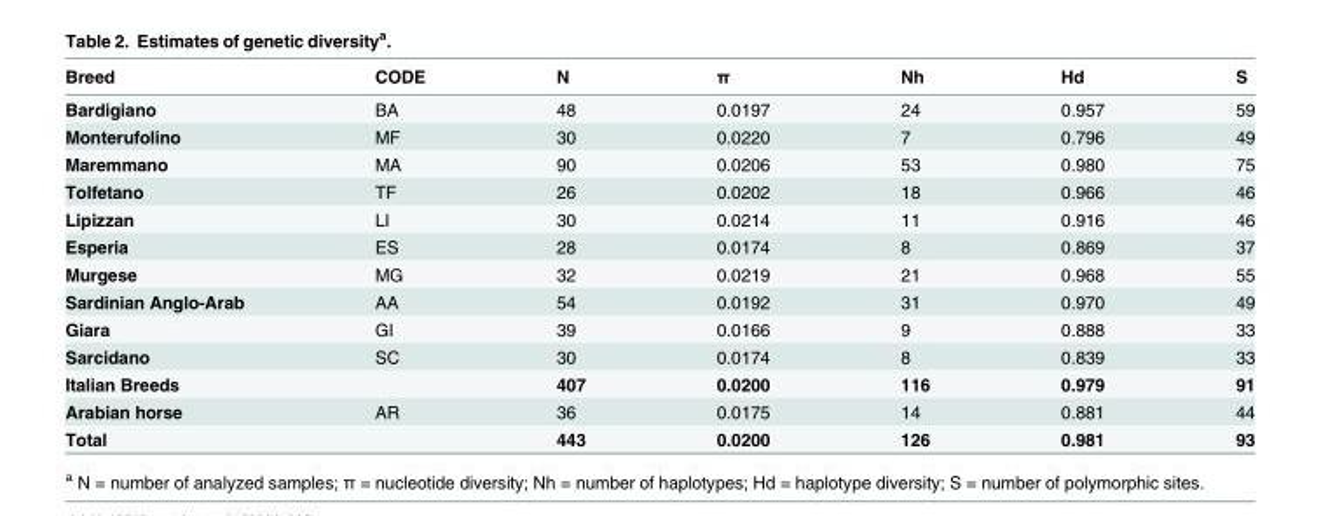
<table><thead><tr><td>Breed</td><td>CODE</td><td>N</td><td>π</td><td>Nh</td><td>Hd</td><td>S</td></tr></thead><tbody><tr><td>Bardigiano</td><td>BA</td><td>48</td><td>0.0197</td><td>24</td><td>0.957</td><td>59</td></tr><tr><td>Monterufolino</td><td>MF</td><td>30</td><td>0.0220</td><td>7</td><td>0.796</td><td>49</td></tr><tr><td>Maremmano</td><td>MA</td><td>90</td><td>0.0206</td><td>53</td><td>0.980</td><td>75</td></tr><tr><td>Tolfetano</td><td>TF</td><td>26</td><td>0.0202</td><td>18</td><td>0.966</td><td>46</td></tr><tr><td>Lipizzan</td><td>LI</td><td>30</td><td>0.0214</td><td>11</td><td>0.916</td><td>46</td></tr><tr><td>Esperia</td><td>ES</td><td>28</td><td>0.0174</td><td>8</td><td>0.869</td><td>37</td></tr><tr><td>Murgese</td><td>MG</td><td>32</td><td>0.0219</td><td>21</td><td>0.968</td><td>55</td></tr><tr><td>Sardinian Anglo-Arab</td><td>AA</td><td>54</td><td>0.0192</td><td>31</td><td>0.970</td><td>49</td></tr><tr><td>Giara</td><td>GI</td><td>39</td><td>0.0166</td><td>9</td><td>0.888</td><td>33</td></tr><tr><td>Sarcidano</td><td>SC</td><td>30</td><td>0.0174</td><td>8</td><td>0.839</td><td>33</td></tr><tr><td>Italian Breeds</td><td></td><td>407</td><td>0.0200</td><td>116</td><td>0.979</td><td>91</td></tr><tr><td>Arabian horse</td><td>AR</td><td>36</td><td>0.0175</td><td>14</td><td>0.881</td><td>44</td></tr><tr><td>Total</td><td></td><td>443</td><td>0.0200</td><td>126</td><td>0.981</td><td>93</td></tr></tbody></table>